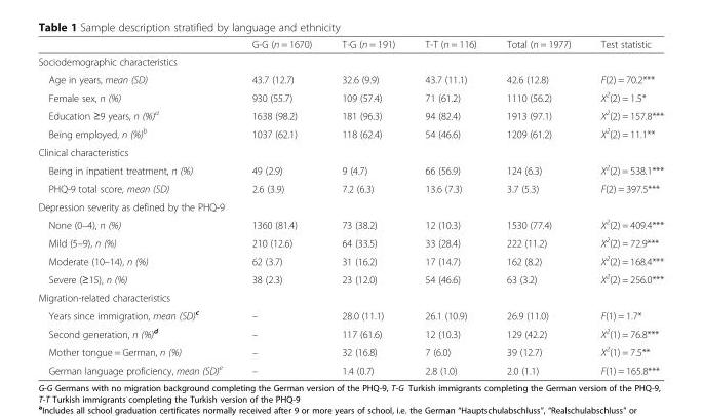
<table><thead><tr><td></td><td>G-G (n = 1670)</td><td>T-G (n = 191)</td><td>T-T (n = 116)</td><td>Total (n = 1977)</td><td>Test statistic</td></tr></thead><tbody><tr><td colspan="6">Sociodemographic characteristics</td></tr><tr><td>Age in years, mean (SD)</td><td>43.7 (12.7)</td><td>32.6 (9.9)</td><td>43.7 (11.1)</td><td>42.6 (12.8)</td><td>F(2) = 70.2***</td></tr><tr><td>Female sex, n (%)</td><td>930 (55.7)</td><td>109 (57.4)</td><td>71 (61.2)</td><td>1110 (56.2)</td><td>X<sup>2</sup>(2) = 1.5*</td></tr><tr><td>Education ≥9 years, n (%)<sup>a</sup></td><td>1638 (98.2)</td><td>181 (96.3)</td><td>94 (82.4)</td><td>1913 (97.1)</td><td>X<sup>2</sup>(2) = 157.8***</td></tr><tr><td>Being employed, n (%)<sup>b</sup></td><td>1037 (62.1)</td><td>118 (62.4)</td><td>54 (46.6)</td><td>1209 (61.2)</td><td>X<sup>2</sup>(2) = 11.1**</td></tr><tr><td colspan="6">Clinical characteristics</td></tr><tr><td>Being in inpatient treatment, n (%)</td><td>49 (2.9)</td><td>9 (4.7)</td><td>66 (56.9)</td><td>124 (6.3)</td><td>X<sup>2</sup>(2) = 538.1***</td></tr><tr><td>PHQ-9 total score, mean (SD)</td><td>2.6 (3.9)</td><td>7.2 (6.3)</td><td>13.6 (7.3)</td><td>3.7 (5.3)</td><td>F(2) = 397.5***</td></tr><tr><td colspan="6">Depression severity as defined by the PHQ-9</td></tr><tr><td>None (0–4), n (%)</td><td>1360 (81.4)</td><td>73 (38.2)</td><td>12 (10.3)</td><td>1530 (77.4)</td><td>X<sup>2</sup>(2) = 409.4***</td></tr><tr><td>Mild (5–9), n (%)</td><td>210 (12.6)</td><td>64 (33.5)</td><td>33 (28.4)</td><td>222 (11.2)</td><td>X<sup>2</sup>(2) = 72.9***</td></tr><tr><td>Moderate (10–14), n (%)</td><td>62 (3.7)</td><td>31 (16.2)</td><td>17 (14.7)</td><td>162 (8.2)</td><td>X<sup>2</sup>(2) = 168.4***</td></tr><tr><td>Severe (≥15), n (%)</td><td>38 (2.3)</td><td>23 (12.0)</td><td>54 (46.6)</td><td>63 (3.2)</td><td>X<sup>2</sup>(2) = 256.0***</td></tr><tr><td colspan="6">Migration-related characteristics</td></tr><tr><td>Years since immigration, mean (SD)<sup>c</sup></td><td>–</td><td>28.0 (11.1)</td><td>26.1 (10.9)</td><td>26.9 (11.0)</td><td>F(1) = 1.7*</td></tr><tr><td>Second generation, n (%)<sup>d</sup></td><td>–</td><td>117 (61.6)</td><td>12 (10.3)</td><td>129 (42.2)</td><td>X<sup>2</sup>(1) = 76.8***</td></tr><tr><td>Mother tongue = German, n (%)</td><td>–</td><td>32 (16.8)</td><td>7 (6.0)</td><td>39 (12.7)</td><td>X<sup>2</sup>(1) = 7.5**</td></tr><tr><td>German language proficiency, mean (SD)<sup>e</sup></td><td>–</td><td>1.4 (0.7)</td><td>2.8 (1.0)</td><td>2.0 (1.1)</td><td>F(1) = 165.8***</td></tr></tbody></table>